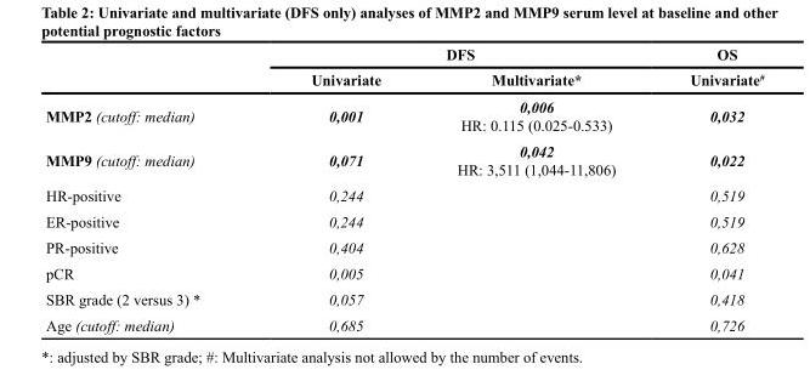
<table><thead><tr><td rowspan="2"></td><td colspan="2">DFS</td><td rowspan="2">OS Univariate<sup>#</sup></td></tr><tr><td>Univariate</td><td>Multivariate*</td></tr></thead><tbody><tr><td>MMP2 (cutoff: median)</td><td>0,001</td><td>0,006 HR: 0.115 (0.025-0.533)</td><td>0,032</td></tr><tr><td>MMP9 (cutoff: median)</td><td>0,071</td><td>0,042 HR: 3,511 (1,044-11,806)</td><td>0,022</td></tr><tr><td>HR-positive</td><td>0,244</td><td></td><td>0,519</td></tr><tr><td>ER-positive</td><td>0,244</td><td></td><td>0,519</td></tr><tr><td>PR-positive</td><td>0,404</td><td></td><td>0,628</td></tr><tr><td>pCR</td><td>0,005</td><td></td><td>0,041</td></tr><tr><td>SBR grade (2 versus 3) *</td><td>0,057</td><td></td><td>0,418</td></tr><tr><td>Age (cutoff: median)</td><td>0,685</td><td></td><td>0,726</td></tr></tbody></table>